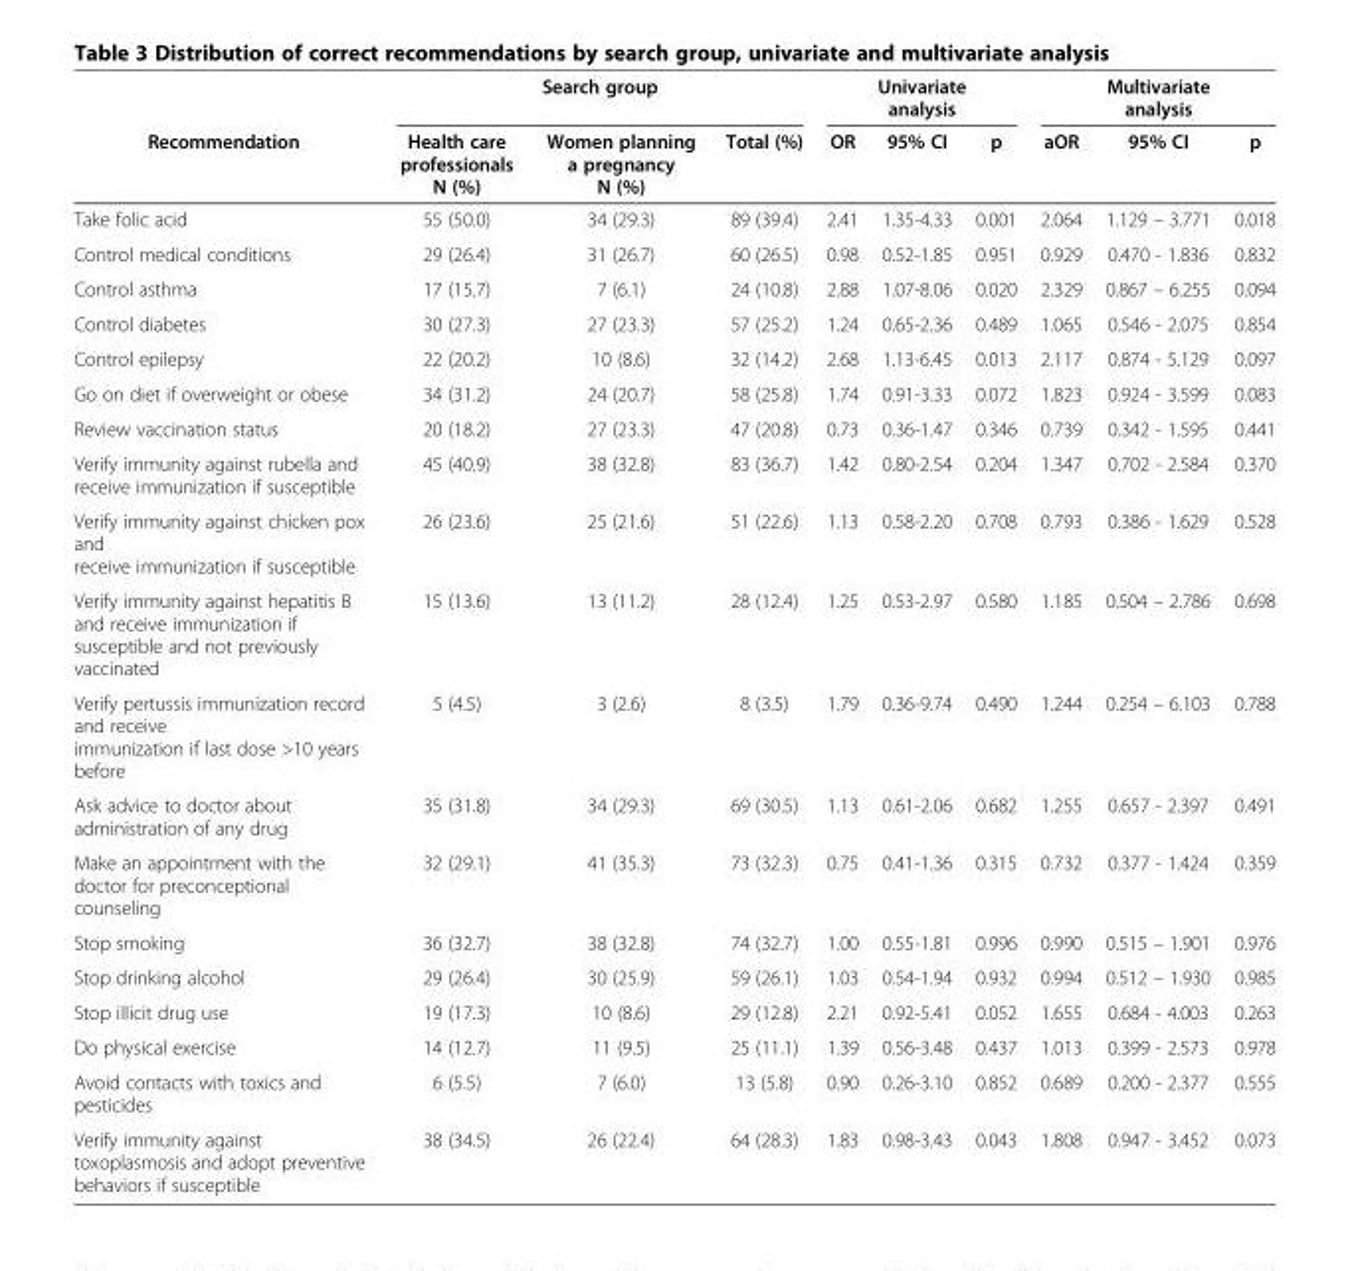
<table><thead><tr><td rowspan="2">Recommendation</td><td colspan="3">Search group</td><td colspan="3">Univariate analysis</td><td colspan="3">Multivariate analysis</td></tr><tr><td>Health care professionals N (%)</td><td>Women planning a pregnancy N (%)</td><td>Total (%)</td><td>OR</td><td>95% CI</td><td>p</td><td>aOR</td><td>95% CI</td><td>p</td></tr></thead><tbody><tr><td>Take folic acid</td><td>55 (50.0)</td><td>34 (29.3)</td><td>89 (39.4)</td><td>2.41</td><td>1.35-4.33</td><td>0.001</td><td>2.064</td><td>1.129 – 3.771</td><td>0.018</td></tr><tr><td>Control medical conditions</td><td>29 (26.4)</td><td>31 (26.7)</td><td>60 (26.5)</td><td>0.98</td><td>0.52-1.85</td><td>0.951</td><td>0.929</td><td>0.470 - 1.836</td><td>0.832</td></tr><tr><td>Control asthma</td><td>17 (15.7)</td><td>7 (6.1)</td><td>24 (10.8)</td><td>2.88</td><td>1.07-8.06</td><td>0.020</td><td>2.329</td><td>0.867 – 6.255</td><td>0.094</td></tr><tr><td>Control diabetes</td><td>30 (27.3)</td><td>27 (23.3)</td><td>57 (25.2)</td><td>1.24</td><td>0.65-2.36</td><td>0.489</td><td>1.065</td><td>0.546 - 2.075</td><td>0.854</td></tr><tr><td>Control epilepsy</td><td>22 (20.2)</td><td>10 (8.6)</td><td>32 (14.2)</td><td>2.68</td><td>1.13-6.45</td><td>0.013</td><td>2.117</td><td>0.874 - 5.129</td><td>0.097</td></tr><tr><td>Go on diet if overweight or obese</td><td>34 (31.2)</td><td>24 (20.7)</td><td>58 (25.8)</td><td>1.74</td><td>0.91-3.33</td><td>0.072</td><td>1.823</td><td>0.924 - 3.599</td><td>0.083</td></tr><tr><td>Review vaccination status</td><td>20 (18.2)</td><td>27 (23.3)</td><td>47 (20.8)</td><td>0.73</td><td>0.36-1.47</td><td>0.346</td><td>0.739</td><td>0.342 - 1.595</td><td>0.441</td></tr><tr><td>Verify immunity against rubella and receive immunization if susceptible</td><td>45 (40.9)</td><td>38 (32.8)</td><td>83 (36.7)</td><td>1.42</td><td>0.80-2.54</td><td>0.204</td><td>1.347</td><td>0.702 - 2.584</td><td>0.370</td></tr><tr><td>Verify immunity against chicken pox and receive immunization if susceptible</td><td>26 (23.6)</td><td>25 (21.6)</td><td>51 (22.6)</td><td>1.13</td><td>0.58-2.20</td><td>0.708</td><td>0.793</td><td>0.386 - 1.629</td><td>0.528</td></tr><tr><td>Verify immunity against hepatitis B and receive immunization if susceptible and not previously vaccinated</td><td>15 (13.6)</td><td>13 (11.2)</td><td>28 (12.4)</td><td>1.25</td><td>0.53-2.97</td><td>0.580</td><td>1.185</td><td>0.504 – 2.786</td><td>0.698</td></tr><tr><td>Verify pertussis immunization record and receive immunization if last dose &gt;10 years before</td><td>5 (4.5)</td><td>3 (2.6)</td><td>8 (3.5)</td><td>1.79</td><td>0.36-9.74</td><td>0.490</td><td>1.244</td><td>0.254 – 6.103</td><td>0.788</td></tr><tr><td>Ask advice to doctor about administration of any drug</td><td>35 (31.8)</td><td>34 (29.3)</td><td>69 (30.5)</td><td>1.13</td><td>0.61-2.06</td><td>0.682</td><td>1.255</td><td>0.657 - 2.397</td><td>0.491</td></tr><tr><td>Make an appointment with the doctor for preconceptional counseling</td><td>32 (29.1)</td><td>41 (35.3)</td><td>73 (32.3)</td><td>0.75</td><td>0.41-1.36</td><td>0.315</td><td>0.732</td><td>0.377 - 1.424</td><td>0.359</td></tr><tr><td>Stop smoking</td><td>36 (32.7)</td><td>38 (32.8)</td><td>74 (32.7)</td><td>1.00</td><td>0.55-1.81</td><td>0.996</td><td>0.990</td><td>0.515 – 1.901</td><td>0.976</td></tr><tr><td>Stop drinking alcohol</td><td>29 (26.4)</td><td>30 (25.9)</td><td>59 (26.1)</td><td>1.03</td><td>0.54-1.94</td><td>0.932</td><td>0.994</td><td>0.512 – 1.930</td><td>0.985</td></tr><tr><td>Stop illicit drug use</td><td>19 (17.3)</td><td>10 (8.6)</td><td>29 (12.8)</td><td>2.21</td><td>0.92-5.41</td><td>0.052</td><td>1.655</td><td>0.684 - 4.003</td><td>0.263</td></tr><tr><td>Do physical exercise</td><td>14 (12.7)</td><td>11 (9.5)</td><td>25 (11.1)</td><td>1.39</td><td>0.56-3.48</td><td>0.437</td><td>1.013</td><td>0.399 - 2.573</td><td>0.978</td></tr><tr><td>Avoid contacts with toxics and pesticides</td><td>6 (5.5)</td><td>7 (6.0)</td><td>13 (5.8)</td><td>0.90</td><td>0.26-3.10</td><td>0.852</td><td>0.689</td><td>0.200 - 2.377</td><td>0.555</td></tr><tr><td>Verify immunity against toxoplasmosis and adopt preventive behaviors if susceptible</td><td>38 (34.5)</td><td>26 (22.4)</td><td>64 (28.3)</td><td>1.83</td><td>0.98-3.43</td><td>0.043</td><td>1.808</td><td>0.947 - 3.452</td><td>0.073</td></tr></tbody></table>